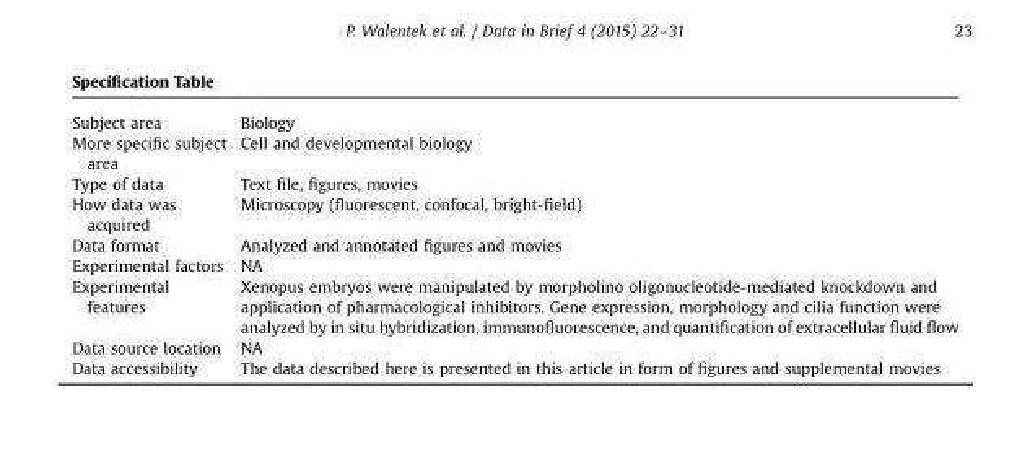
<table><thead><tr><td rowspan="2">Specification Table Subject area</td><td rowspan="2">Biology</td></tr><tr></tr></thead><tbody><tr><td>More specific subject area</td><td>Cell and developmental biology</td></tr><tr><td>Type of data</td><td>Text file, figures, movies</td></tr><tr><td>How data was acquired</td><td>Microscopy (fluorescent, confocal, bright-field)</td></tr><tr><td>Data format</td><td>Analyzed and annotated figures and movies</td></tr><tr><td>Experimental factors</td><td>NA</td></tr><tr><td>Experimental features</td><td>Xenopus embryos were manipulated by morpholino oligonucleotide-mediated knockdown and application of pharmacological inhibitors. Gene expression, morphology and cilia function were analyzed by in situ hybridization, immunofluorescence, and quantification of extracellular fluid flow</td></tr><tr><td>Data source location</td><td>NA</td></tr><tr><td>Data accessibility</td><td>The data described here is presented in this article in form of figures and supplemental movies</td></tr></tbody></table>